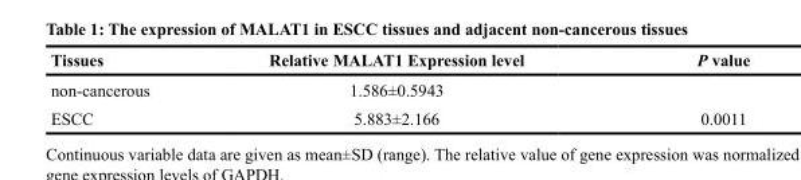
<table><thead><tr><td>Tissues</td><td>Relative MALAT1 Expression level</td><td>P value</td></tr></thead><tbody><tr><td>non-cancerous</td><td>1.586±0.5943</td><td></td></tr><tr><td>ESCC</td><td>5.883±2.166</td><td>0.0011</td></tr></tbody></table>